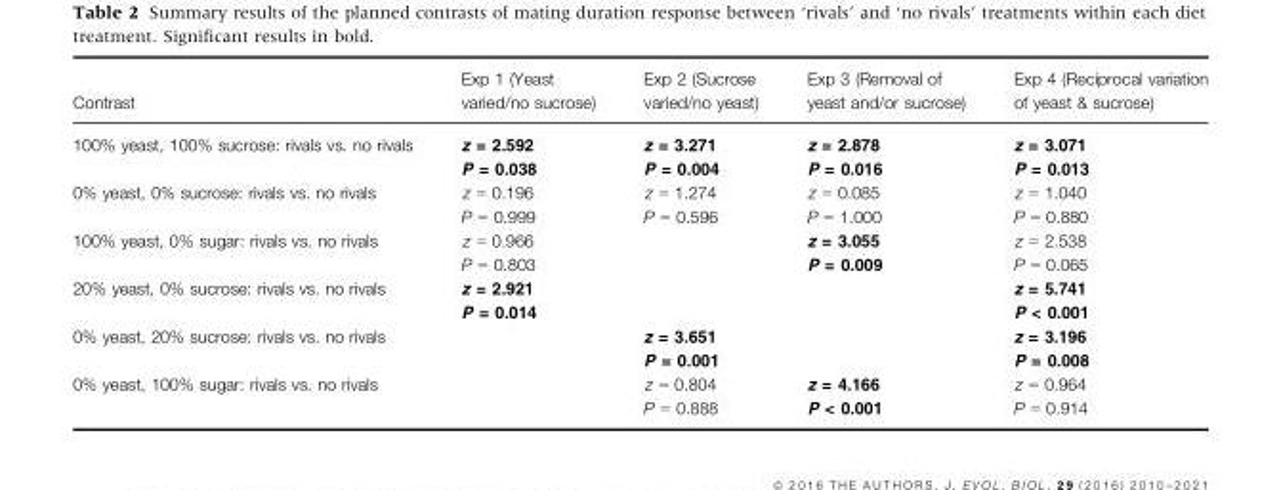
<table><thead><tr><td>Contrast</td><td>Exp 1 (Yeast varied/no sucrose)</td><td>Exp 2 (Sucrose varied/no yeast)</td><td>Exp 3 (Removal of yeast and/or sucrose)</td><td>Exp 4 (Reciprocal variation of yeast &amp; sucrose)</td></tr></thead><tbody><tr><td>100% yeast, 100% sucrose: rivals vs. no rivals</td><td>z = 2.592 P = 0.038</td><td>z = 3.271 P = 0.004</td><td>z = 2.878 P = 0.016</td><td>z = 3.071 P = 0.013</td></tr><tr><td>0% yeast, 0% sucrose: rivals vs. no rivals</td><td>z = 0.196 P = 0.999</td><td>z = 1.274 P = 0.596</td><td>z = 0.085 P = 1.000</td><td>z = 1.040 P = 0.880</td></tr><tr><td>100% yeast, 0% sugar: rivals vs. no rivals</td><td>z = 0.966 P = 0.803</td><td></td><td>z = 3.055 P = 0.009</td><td>z = 2.538 P = 0.065</td></tr><tr><td>20% yeast, 0% sucrose: rivals vs. no rivals</td><td>z = 2.921 P = 0.014</td><td></td><td></td><td>z = 5.741 P &lt; 0.001</td></tr><tr><td>0% yeast, 20% sucrose: rivals vs. no rivals</td><td></td><td>z = 3.651 P = 0.001</td><td></td><td>z = 3.196 P = 0.008</td></tr><tr><td>0% yeast, 100% sugar: rivals vs. no rivals</td><td></td><td>z = 0.804 P = 0.888</td><td>z = 4.166 P &lt; 0.001</td><td>z = 0.964 P = 0.914</td></tr></tbody></table>